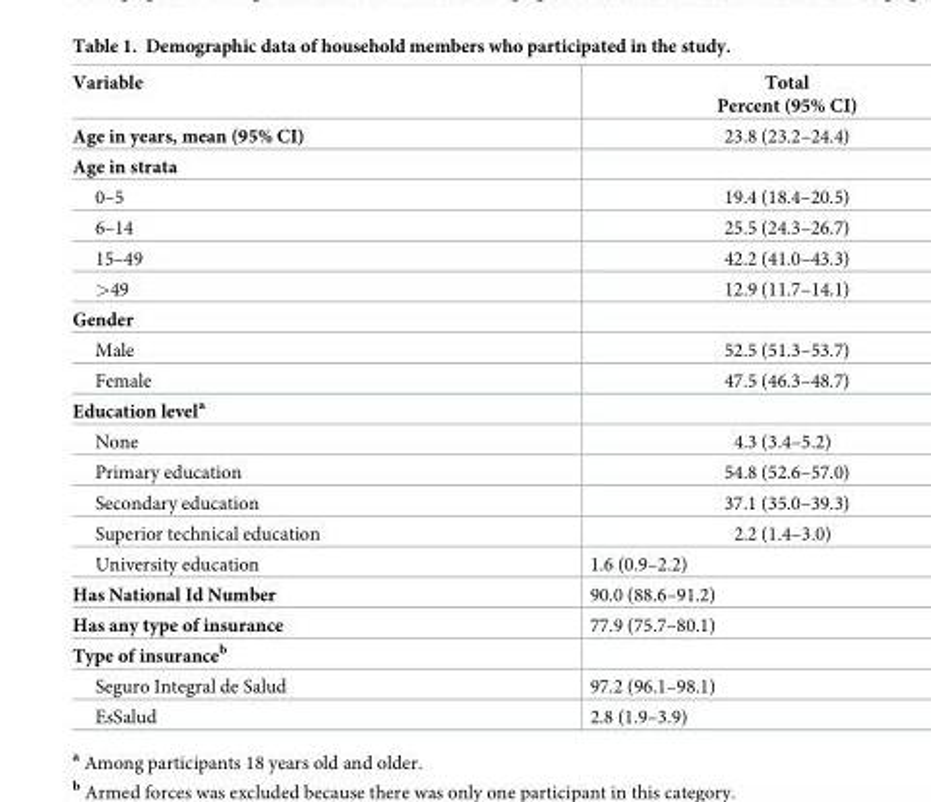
<table><thead><tr><td>Variable</td><td>Total Percent (95% CI)</td></tr></thead><tbody><tr><td>Age in years, mean (95% CI)</td><td>23.8 (23.2–24.4)</td></tr><tr><td colspan="2">Age in strata</td></tr><tr><td>0–5</td><td>19.4 (18.4–20.5)</td></tr><tr><td>6–14</td><td>25.5 (24.3–26.7)</td></tr><tr><td>15–49</td><td>42.2 (41.0–43.3)</td></tr><tr><td>&gt;49</td><td>12.9 (11.7–14.1)</td></tr><tr><td colspan="2">Gender</td></tr><tr><td>Male</td><td>52.5 (51.3–53.7)</td></tr><tr><td>Female</td><td>47.5 (46.3–48.7)</td></tr><tr><td colspan="2">Education level<sup>a</sup></td></tr><tr><td>None</td><td>4.3 (3.4–5.2)</td></tr><tr><td>Primary education</td><td>54.8 (52.6–57.0)</td></tr><tr><td>Secondary education</td><td>37.1 (35.0–39.3)</td></tr><tr><td>Superior technical education</td><td>2.2 (1.4–3.0)</td></tr><tr><td>University education</td><td>1.6 (0.9–2.2)</td></tr><tr><td>Has National Id Number</td><td>90.0 (88.6–91.2)</td></tr><tr><td>Has any type of insurance</td><td>77.9 (75.7–80.1)</td></tr><tr><td colspan="2">Type of insurance<sup>b</sup></td></tr><tr><td>Seguro Integral de Salud</td><td>97.2 (96.1–98.1)</td></tr><tr><td>EsSalud</td><td>2.8 (1.9–3.9)</td></tr></tbody></table>